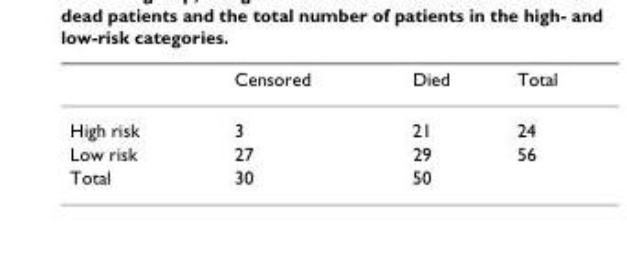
<table><thead><tr><td></td><td>Censored</td><td>Died</td><td>Total</td></tr></thead><tbody><tr><td>High risk</td><td>3</td><td>21</td><td>24</td></tr><tr><td>Low risk</td><td>27</td><td>29</td><td>56</td></tr><tr><td>Total</td><td>30</td><td>50</td><td></td></tr></tbody></table>